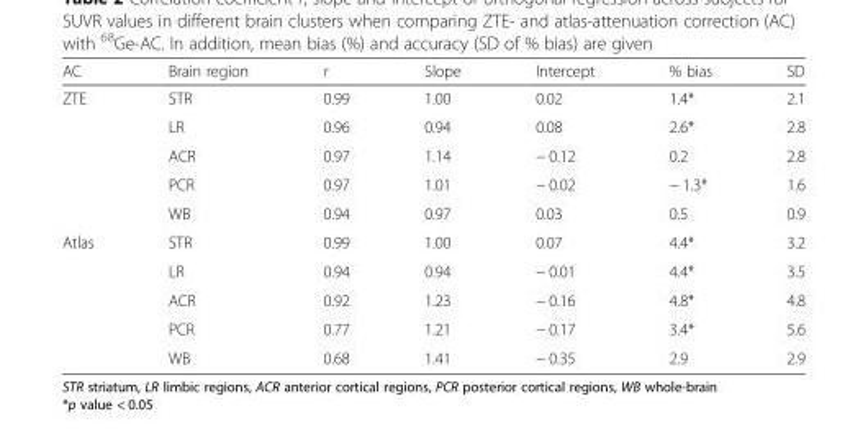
<table><thead><tr><td>AC</td><td>Brain region</td><td>r</td><td>Slope</td><td>Intercept</td><td>% bias</td><td>SD</td></tr></thead><tbody><tr><td rowspan="5">ZTE</td><td>STR</td><td>0.99</td><td>1.00</td><td>0.02</td><td>1.4*</td><td>2.1</td></tr><tr><td>LR</td><td>0.96</td><td>0.94</td><td>0.08</td><td>2.6*</td><td>2.8</td></tr><tr><td>ACR</td><td>0.97</td><td>1.14</td><td>− 0.12</td><td>0.2</td><td>2.8</td></tr><tr><td>PCR</td><td>0.97</td><td>1.01</td><td>− 0.02</td><td>− 1.3*</td><td>1.6</td></tr><tr><td>WB</td><td>0.94</td><td>0.97</td><td>0.03</td><td>0.5</td><td>0.9</td></tr><tr><td rowspan="5">Atlas</td><td>STR</td><td>0.99</td><td>1.00</td><td>0.07</td><td>4.4*</td><td>3.2</td></tr><tr><td>LR</td><td>0.94</td><td>0.94</td><td>− 0.01</td><td>4.4*</td><td>3.5</td></tr><tr><td>ACR</td><td>0.92</td><td>1.23</td><td>− 0.16</td><td>4.8*</td><td>4.8</td></tr><tr><td>PCR</td><td>0.77</td><td>1.21</td><td>− 0.17</td><td>3.4*</td><td>5.6</td></tr><tr><td>WB</td><td>0.68</td><td>1.41</td><td>− 0.35</td><td>2.9</td><td>2.9</td></tr></tbody></table>